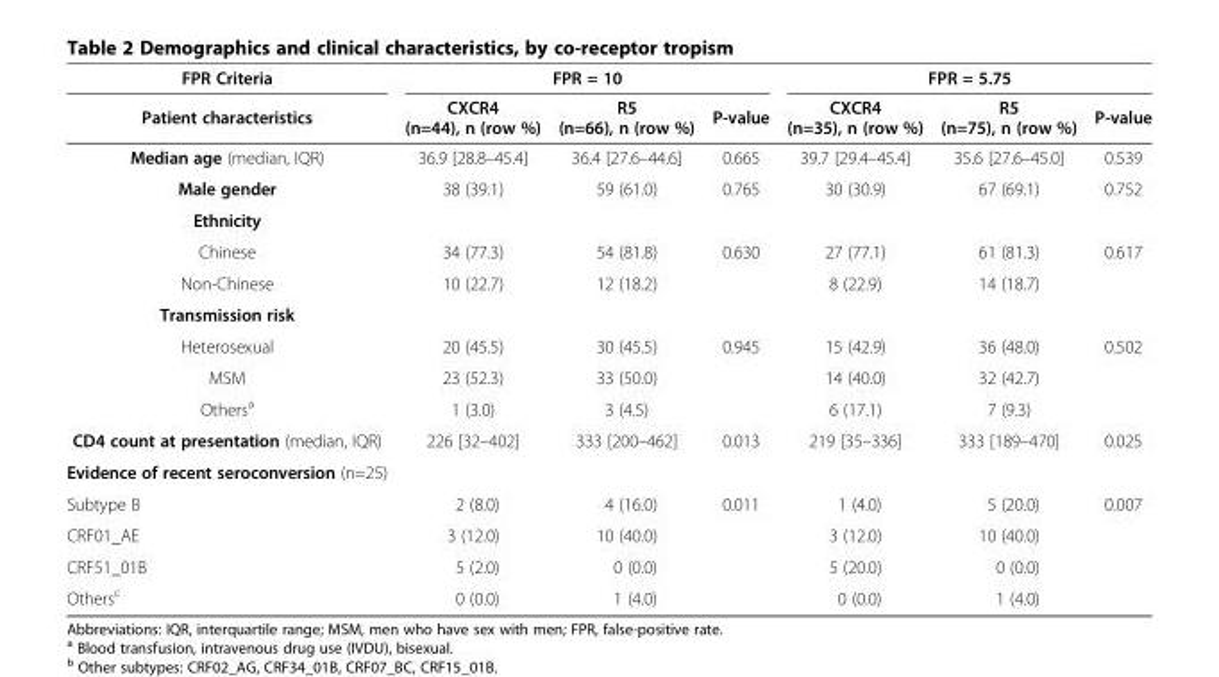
<table><thead><tr><td rowspan="2">FPR Criteria Patient characteristics</td><td colspan="3">FPR = 10</td><td colspan="3">FPR = 5.75</td></tr><tr><td>CXCR4 (n=44), n (row %)</td><td>R5 (n=66), n (row %)</td><td>P-value</td><td>CXCR4 (n=35), n (row %)</td><td>R5 (n=75), n (row %)</td><td>P-value</td></tr></thead><tbody><tr><td>Median age (median, IQR)</td><td>36.9 [28.8–45.4]</td><td>36.4 [27.6–44.6]</td><td>0.665</td><td>39.7 [29.4–45.4]</td><td>35.6 [27.6–45.0]</td><td>0.539</td></tr><tr><td>Male gender</td><td>38 (39.1)</td><td>59 (61.0)</td><td>0.765</td><td>30 (30.9)</td><td>67 (69.1)</td><td>0.752</td></tr><tr><td colspan="7">Ethnicity</td></tr><tr><td>Chinese</td><td>34 (77.3)</td><td>54 (81.8)</td><td>0.630</td><td>27 (77.1)</td><td>61 (81.3)</td><td>0.617</td></tr><tr><td>Non-Chinese</td><td>10 (22.7)</td><td>12 (18.2)</td><td></td><td>8 (22.9)</td><td>14 (18.7)</td><td></td></tr><tr><td colspan="7">Transmission risk</td></tr><tr><td>Heterosexual</td><td>20 (45.5)</td><td>30 (45.5)</td><td>0.945</td><td>15 (42.9)</td><td>36 (48.0)</td><td>0.502</td></tr><tr><td>MSM</td><td>23 (52.3)</td><td>33 (50.0)</td><td></td><td>14 (40.0)</td><td>32 (42.7)</td><td></td></tr><tr><td>Others<sup>a</sup></td><td>1 (3.0)</td><td>3 (4.5)</td><td></td><td>6 (17.1)</td><td>7 (9.3)</td><td></td></tr><tr><td>CD4 count at presentation (median, IQR)</td><td>226 [32–402]</td><td>333 [200–462]</td><td>0.013</td><td>219 [35–336]</td><td>333 [189–470]</td><td>0.025</td></tr><tr><td colspan="7">Evidence of recent seroconversion (n=25)</td></tr><tr><td>Subtype B</td><td>2 (8.0)</td><td>4 (16.0)</td><td>0.011</td><td>1 (4.0)</td><td>5 (20.0)</td><td>0.007</td></tr><tr><td>CRF01_AE</td><td>3 (12.0)</td><td>10 (40.0)</td><td></td><td>3 (12.0)</td><td>10 (40.0)</td><td></td></tr><tr><td>CRF51_01B</td><td>5 (2.0)</td><td>0 (0.0)</td><td></td><td>5 (20.0)</td><td>0 (0.0)</td><td></td></tr><tr><td>Others<sup>c</sup></td><td>0 (0.0)</td><td>1 (4.0)</td><td></td><td>0 (0.0)</td><td>1 (4.0)</td><td></td></tr></tbody></table>